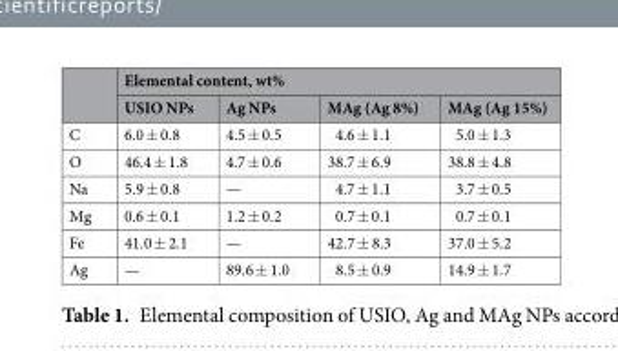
<table><thead><tr><td rowspan="2"></td><td colspan="4">Elemental content, wt%</td></tr><tr><td>USIO NPs</td><td>Ag NPs</td><td>MAg (Ag 8%)</td><td>MAg (Ag 15%)</td></tr></thead><tbody><tr><td>C</td><td>6.0 ± 0.8</td><td>4.5 ± 0.5</td><td>4.6 ± 1.1</td><td>5.0 ± 1.3</td></tr><tr><td>O</td><td>46.4 ± 1.8</td><td>4.7 ± 0.6</td><td>38.7 ± 6.9</td><td>38.8 ± 4.8</td></tr><tr><td>Na</td><td>5.9 ± 0.8</td><td>—</td><td>4.7 ± 1.1</td><td>3.7 ± 0.5</td></tr><tr><td>Mg</td><td>0.6 ± 0.1</td><td>1.2 ± 0.2</td><td>0.7 ± 0.1</td><td>0.7 ± 0.1</td></tr><tr><td>Fe</td><td>41.0 ± 2.1</td><td>—</td><td>42.7 ± 8.3</td><td>37.0 ± 5.2</td></tr><tr><td>Ag</td><td>—</td><td>89.6 ± 1.0</td><td>8.5 ± 0.9</td><td>14.9 ± 1.7</td></tr></tbody></table>